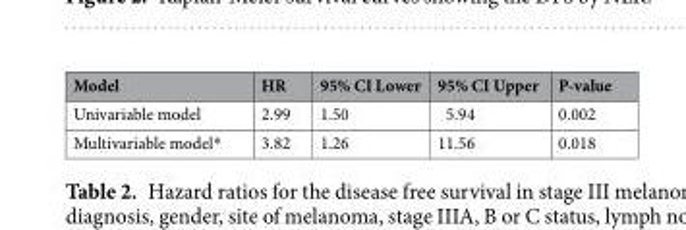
<table><thead><tr><td>Model</td><td>HR</td><td>95% CI Lower</td><td>95% CI Upper</td><td>P-value</td></tr></thead><tbody><tr><td>Univariable model</td><td>2.99</td><td>1.50</td><td>5.94</td><td>0.002</td></tr><tr><td>Multivariable model*</td><td>3.82</td><td>1.26</td><td>11.56</td><td>0.018</td></tr></tbody></table>